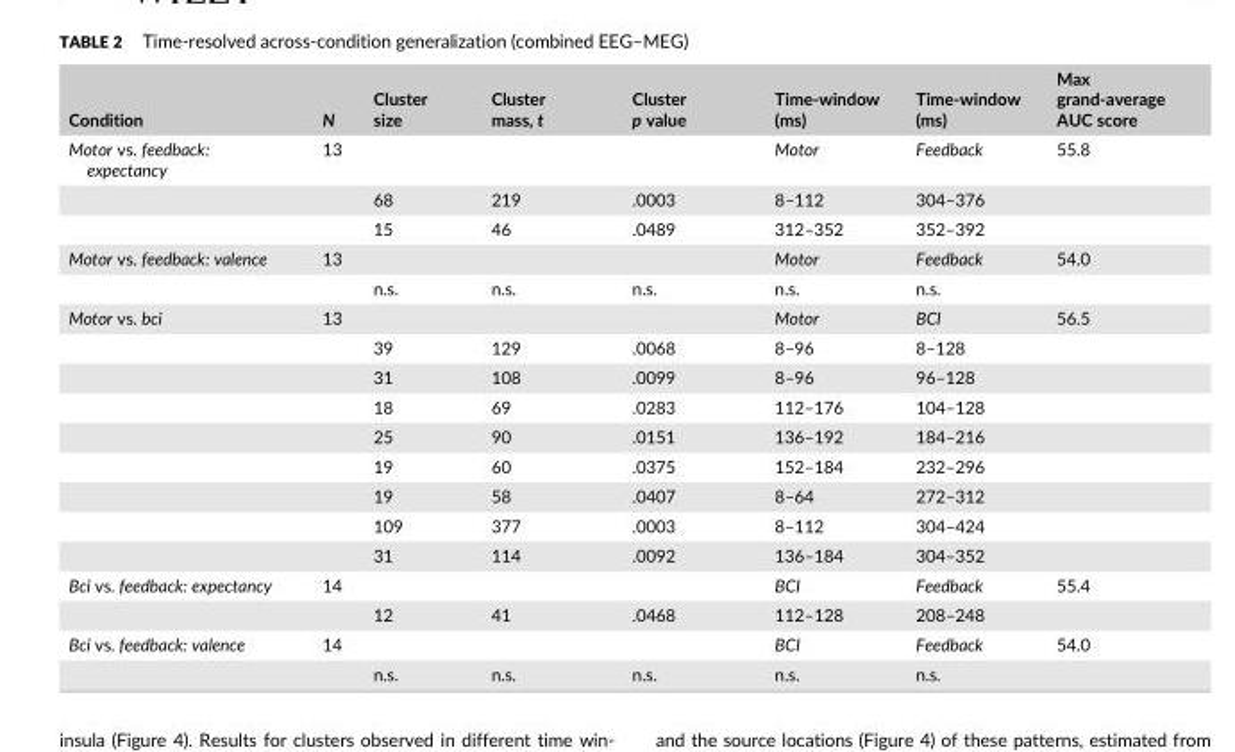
<table><thead><tr><td>Condition</td><td>N</td><td>Cluster size</td><td>Cluster mass, t</td><td>Cluster p value</td><td>Time-window (ms)</td><td>Time-window (ms)</td><td>Max grand-average AUC score</td></tr></thead><tbody><tr><td rowspan="3">Motor vs. feedback: expectancy</td><td rowspan="3">13</td><td></td><td></td><td></td><td>Motor</td><td>Feedback</td><td rowspan="3">55.8</td></tr><tr><td>68</td><td>219</td><td>.0003</td><td>8–112</td><td>304–376</td></tr><tr><td>15</td><td>46</td><td>.0489</td><td>312–352</td><td>352–392</td></tr><tr><td rowspan="2">Motor vs. feedback: valence</td><td rowspan="2">13</td><td></td><td></td><td></td><td>Motor</td><td>Feedback</td><td rowspan="2">54.0</td></tr><tr><td>n.s.</td><td>n.s.</td><td>n.s.</td><td>n.s.</td><td>n.s.</td></tr><tr><td rowspan="9">Motor vs. bci</td><td rowspan="9">13</td><td></td><td></td><td></td><td>Motor</td><td>BCI</td><td rowspan="9">56.5</td></tr><tr><td>39</td><td>129</td><td>.0068</td><td>8–96</td><td>8–128</td></tr><tr><td>31</td><td>108</td><td>.0099</td><td>8–96</td><td>96–128</td></tr><tr><td>18</td><td>69</td><td>.0283</td><td>112–176</td><td>104–128</td></tr><tr><td>25</td><td>90</td><td>.0151</td><td>136–192</td><td>184–216</td></tr><tr><td>19</td><td>60</td><td>.0375</td><td>152–184</td><td>232–296</td></tr><tr><td>19</td><td>58</td><td>.0407</td><td>8–64</td><td>272–312</td></tr><tr><td>109</td><td>377</td><td>.0003</td><td>8–112</td><td>304–424</td></tr><tr><td>31</td><td>114</td><td>.0092</td><td>136–184</td><td>304–352</td></tr><tr><td rowspan="2">Bci vs. feedback: expectancy</td><td rowspan="2">14</td><td></td><td></td><td></td><td>BCI</td><td>Feedback</td><td rowspan="2">55.4</td></tr><tr><td>12</td><td>41</td><td>.0468</td><td>112–128</td><td>208–248</td></tr><tr><td rowspan="2">Bci vs. feedback: valence</td><td rowspan="2">14</td><td></td><td></td><td></td><td>BCI</td><td>Feedback</td><td rowspan="2">54.0</td></tr><tr><td>n.s.</td><td>n.s.</td><td>n.s.</td><td>n.s.</td><td>n.s.</td></tr></tbody></table>